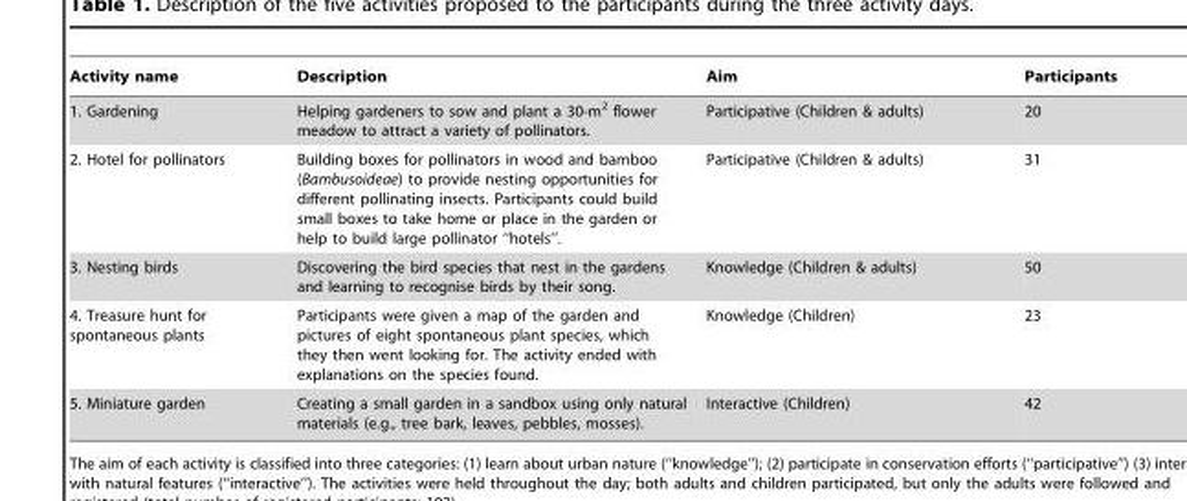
<table><thead><tr><td>Activity name</td><td>Description</td><td>Aim</td><td>Participants</td></tr></thead><tbody><tr><td>1. Gardening</td><td>Helping gardeners to sow and plant a 30-m<sup>2</sup> flower meadow to attract a variety of pollinators.</td><td>Participative (Children &amp; adults)</td><td>20</td></tr><tr><td>2. Hotel for pollinators</td><td>Building boxes for pollinators in wood and bamboo (Bambusoideae) to provide nesting opportunities for different pollinating insects. Participants could build small boxes to take home or place in the garden or help to build large pollinator ‘‘hotels’’.</td><td>Participative (Children &amp; adults)</td><td>31</td></tr><tr><td>3. Nesting birds</td><td>Discovering the bird species that nest in the gardens and learning to recognise birds by their song.</td><td>Knowledge (Children &amp; adults)</td><td>50</td></tr><tr><td>4. Treasure hunt for spontaneous plants</td><td>Participants were given a map of the garden and pictures of eight spontaneous plant species, which they then went looking for. The activity ended with explanations on the species found.</td><td>Knowledge (Children)</td><td>23</td></tr><tr><td>5. Miniature garden</td><td>Creating a small garden in a sandbox using only natural materials (e.g., tree bark, leaves, pebbles, mosses).</td><td>Interactive (Children)</td><td>42</td></tr></tbody></table>